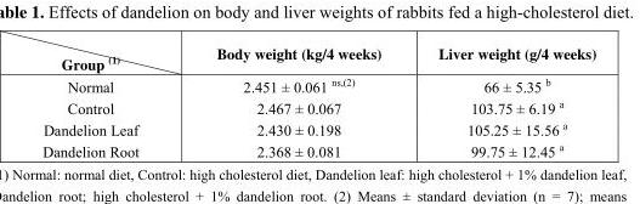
<table><thead><tr><td>Group <sup>(1)</sup></td><td>Body weight (kg/4 weeks)</td><td>Liver weight (g/4 weeks)</td></tr></thead><tbody><tr><td>Normal</td><td>2.451 ± 0.061 <sup>ns,(2)</sup></td><td>66 ± 5.35 <sup>b</sup></td></tr><tr><td>Control</td><td>2.467 ± 0.067</td><td>103.75 ± 6.19 <sup>a</sup></td></tr><tr><td>Dandelion Leaf</td><td>2.430 ± 0.198</td><td>105.25 ± 15.56 <sup>a</sup></td></tr><tr><td>Dandelion Root</td><td>2.368 ± 0.081</td><td>99.75 ± 12.45 <sup>a</sup></td></tr></tbody></table>